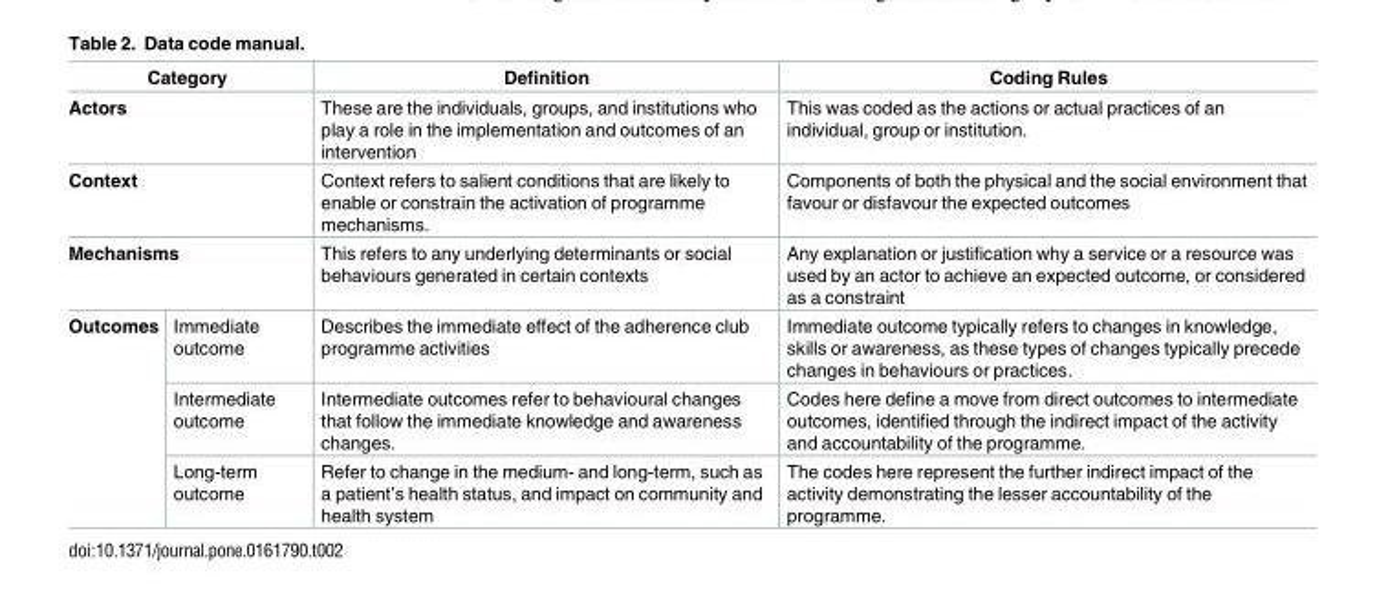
<table><thead><tr><td colspan="2">Category</td><td>Definition</td><td>Coding Rules</td></tr></thead><tbody><tr><td colspan="2">Actors</td><td>These are the individuals, groups, and institutions who play a role in the implementation and outcomes of an intervention</td><td>This was coded as the actions or actual practices of an individual, group or institution.</td></tr><tr><td colspan="2">Context</td><td>Context refers to salient conditions that are likely to enable or constrain the activation of programme mechanisms.</td><td>Components of both the physical and the social environment that favour or disfavour the expected outcomes</td></tr><tr><td colspan="2">Mechanisms</td><td>This refers to any underlying determinants or social behaviours generated in certain contexts</td><td>Any explanation or justification why a service or a resource was used by an actor to achieve an expected outcome, or considered as a constraint</td></tr><tr><td rowspan="3">Outcomes</td><td>Immediate outcome</td><td>Describes the immediate effect of the adherence club programme activities</td><td>Immediate outcome typically refers to changes in knowledge, skills or awareness, as these types of changes typically precede changes in behaviours or practices.</td></tr><tr><td>Intermediate outcome</td><td>Intermediate outcomes refer to behavioural changes that follow the immediate knowledge and awareness changes.</td><td>Codes here define a move from direct outcomes to intermediate outcomes, identified through the indirect impact of the activity and accountability of the programme.</td></tr><tr><td>Long-term outcome</td><td>Refer to change in the medium- and long-term, such as a patient’s health status, and impact on community and health system</td><td>The codes here represent the further indirect impact of the activity demonstrating the lesser accountability of the programme.</td></tr></tbody></table>